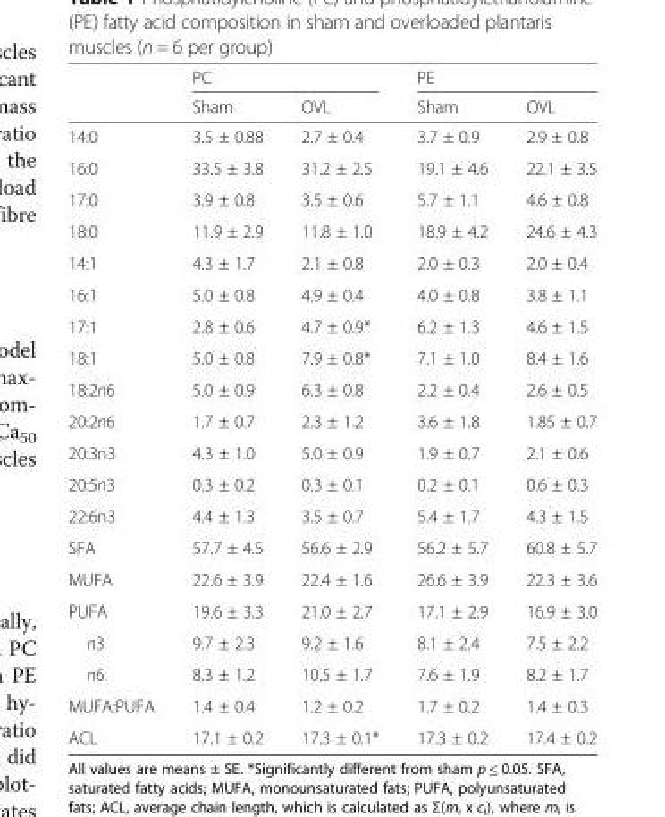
<table><thead><tr><td rowspan="2"></td><td colspan="2">PC</td><td colspan="2">PE</td></tr><tr><td>Sham</td><td>OVL</td><td>Sham</td><td>OVL</td></tr></thead><tbody><tr><td>14:0</td><td>3.5 ± 0.88</td><td>2.7 ± 0.4</td><td>3.7 ± 0.9</td><td>2.9 ± 0.8</td></tr><tr><td>16:0</td><td>33.5 ± 3.8</td><td>31.2 ± 2.5</td><td>19.1 ± 4.6</td><td>22.1 ± 3.5</td></tr><tr><td>17:0</td><td>3.9 ± 0.8</td><td>3.5 ± 0.6</td><td>5.7 ± 1.1</td><td>4.6 ± 0.8</td></tr><tr><td>18:0</td><td>11.9 ± 2.9</td><td>11.8 ± 1.0</td><td>18.9 ± 4.2</td><td>24.6 ± 4.3</td></tr><tr><td>14:1</td><td>4.3 ± 1.7</td><td>2.1 ± 0.8</td><td>2.0 ± 0.3</td><td>2.0 ± 0.4</td></tr><tr><td>16:1</td><td>5.0 ± 0.8</td><td>4.9 ± 0.4</td><td>4.0 ± 0.8</td><td>3.8 ± 1.1</td></tr><tr><td>17:1</td><td>2.8 ± 0.6</td><td>4.7 ± 0.9*</td><td>6.2 ± 1.3</td><td>4.6 ± 1.5</td></tr><tr><td>18:1</td><td>5.0 ± 0.8</td><td>7.9 ± 0.8*</td><td>7.1 ± 1.0</td><td>8.4 ± 1.6</td></tr><tr><td>18:2n6</td><td>5.0 ± 0.9</td><td>6.3 ± 0.8</td><td>2.2 ± 0.4</td><td>2.6 ± 0.5</td></tr><tr><td>20:2n6</td><td>1.7 ± 0.7</td><td>2.3 ± 1.2</td><td>3.6 ± 1.8</td><td>1.85 ± 0.7</td></tr><tr><td>20:3n3</td><td>4.3 ± 1.0</td><td>5.0 ± 0.9</td><td>1.9 ± 0.7</td><td>2.1 ± 0.6</td></tr><tr><td>20:5n3</td><td>0.3 ± 0.2</td><td>0.3 ± 0.1</td><td>0.2 ± 0.1</td><td>0.6 ± 0.3</td></tr><tr><td>22:6n3</td><td>4.4 ± 1.3</td><td>3.5 ± 0.7</td><td>5.4 ± 1.7</td><td>4.3 ± 1.5</td></tr><tr><td>SFA</td><td>57.7 ± 4.5</td><td>56.6 ± 2.9</td><td>56.2 ± 5.7</td><td>60.8 ± 5.7</td></tr><tr><td>MUFA</td><td>22.6 ± 3.9</td><td>22.4 ± 1.6</td><td>26.6 ± 3.9</td><td>22.3 ± 3.6</td></tr><tr><td>PUFA</td><td>19.6 ± 3.3</td><td>21.0 ± 2.7</td><td>17.1 ± 2.9</td><td>16.9 ± 3.0</td></tr><tr><td>n3</td><td>9.7 ± 2.3</td><td>9.2 ± 1.6</td><td>8.1 ± 2.4</td><td>7.5 ± 2.2</td></tr><tr><td>n6</td><td>8.3 ± 1.2</td><td>10.5 ± 1.7</td><td>7.6 ± 1.9</td><td>8.2 ± 1.7</td></tr><tr><td>MUFA:PUFA</td><td>1.4 ± 0.4</td><td>1.2 ± 0.2</td><td>1.7 ± 0.2</td><td>1.4 ± 0.3</td></tr><tr><td>ACL</td><td>17.1 ± 0.2</td><td>17.3 ± 0.1*</td><td>17.3 ± 0.2</td><td>17.4 ± 0.2</td></tr></tbody></table>